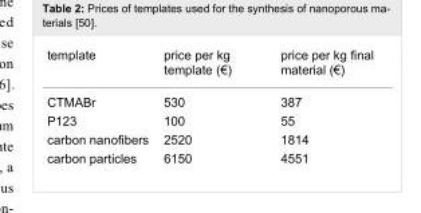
<table><tbody><tr><td>template</td><td>price per kg template (€)</td><td>price per kg final material (€)</td></tr><tr><td>CTMABr</td><td>530</td><td>387</td></tr><tr><td>P123</td><td>100</td><td>55</td></tr><tr><td>carbon nanofibers</td><td>2520</td><td>1814</td></tr><tr><td>carbon particles</td><td>6150</td><td>4551</td></tr></tbody></table>